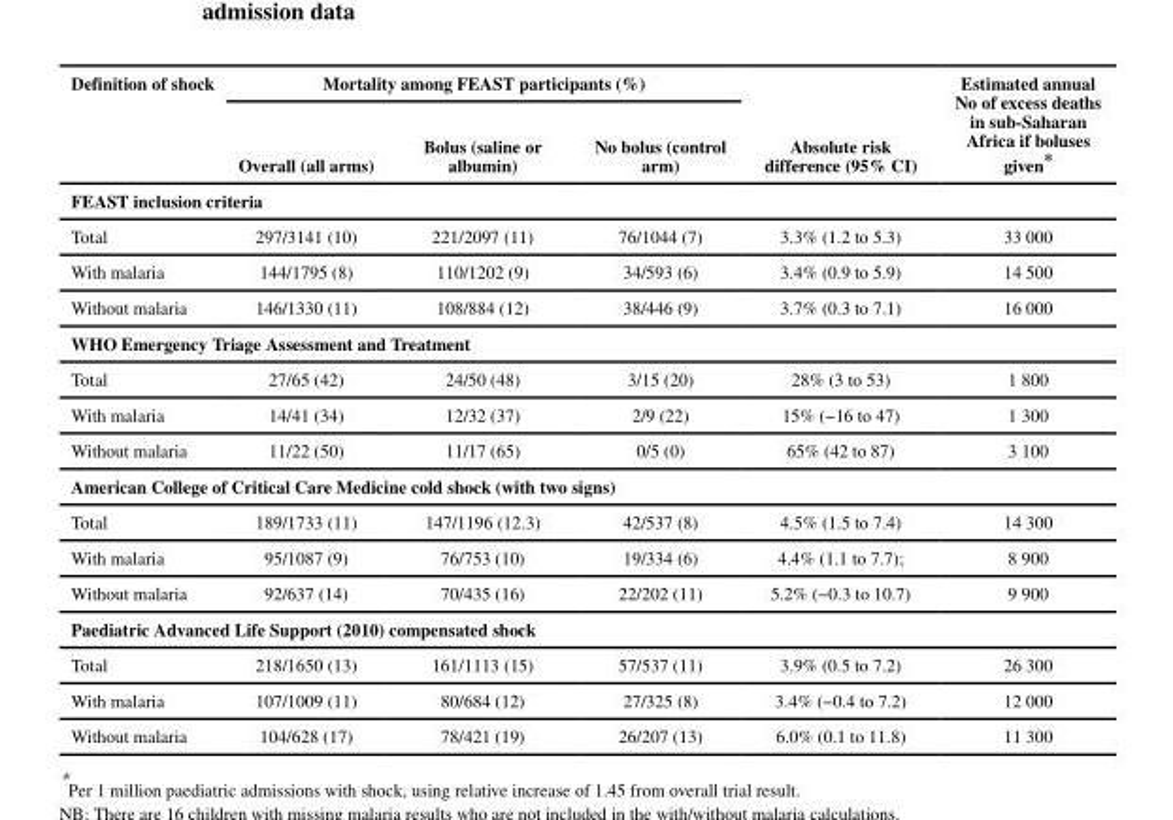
<table><thead><tr><td rowspan="2">Definition of shock</td><td colspan="3">Mortality among FEAST participants (%)</td><td rowspan="2">Absolute risk difference (95% CI)</td><td rowspan="2">Estimated annual No of excess deaths in sub-Saharan Africa if boluses given*</td></tr><tr><td>Overall (all arms)</td><td>Bolus (saline or albumin)</td><td>No bolus (control arm)</td></tr></thead><tbody><tr><td colspan="6">FEAST inclusion criteria</td></tr><tr><td>Total</td><td>297/3141 (10)</td><td>221/2097 (11)</td><td>76/1044 (7)</td><td>3.3% (1.2 to 5.3)</td><td>33 000</td></tr><tr><td>With malaria</td><td>144/1795 (8)</td><td>110/1202 (9)</td><td>34/593 (6)</td><td>3.4% (0.9 to 5.9)</td><td>14 500</td></tr><tr><td>Without malaria</td><td>146/1330 (11)</td><td>108/884 (12)</td><td>38/446 (9)</td><td>3.7% (0.3 to 7.1)</td><td>16 000</td></tr><tr><td colspan="6">WHO Emergency Triage Assessment and Treatment</td></tr><tr><td>Total</td><td>27/65 (42)</td><td>24/50 (48)</td><td>3/15 (20)</td><td>28% (3 to 53)</td><td>1 800</td></tr><tr><td>With malaria</td><td>14/41 (34)</td><td>12/32 (37)</td><td>2/9 (22)</td><td>15% (−16 to 47)</td><td>1 300</td></tr><tr><td>Without malaria</td><td>11/22 (50)</td><td>11/17 (65)</td><td>0/5 (0)</td><td>65% (42 to 87)</td><td>3 100</td></tr><tr><td colspan="6">American College of Critical Care Medicine cold shock (with two signs)</td></tr><tr><td>Total</td><td>189/1733 (11)</td><td>147/1196 (12.3)</td><td>42/537 (8)</td><td>4.5% (1.5 to 7.4)</td><td>14 300</td></tr><tr><td>With malaria</td><td>95/1087 (9)</td><td>76/753 (10)</td><td>19/334 (6)</td><td>4.4% (1.1 to 7.7);</td><td>8 900</td></tr><tr><td>Without malaria</td><td>92/637 (14)</td><td>70/435 (16)</td><td>22/202 (11)</td><td>5.2% (−0.3 to 10.7)</td><td>9 900</td></tr><tr><td colspan="6">Paediatric Advanced Life Support (2010) compensated shock</td></tr><tr><td>Total</td><td>218/1650 (13)</td><td>161/1113 (15)</td><td>57/537 (11)</td><td>3.9% (0.5 to 7.2)</td><td>26 300</td></tr><tr><td>With malaria</td><td>107/1009 (11)</td><td>80/684 (12)</td><td>27/325 (8)</td><td>3.4% (−0.4 to 7.2)</td><td>12 000</td></tr><tr><td>Without malaria</td><td>104/628 (17)</td><td>78/421 (19)</td><td>26/207 (13)</td><td>6.0% (0.1 to 11.8)</td><td>11 300</td></tr></tbody></table>